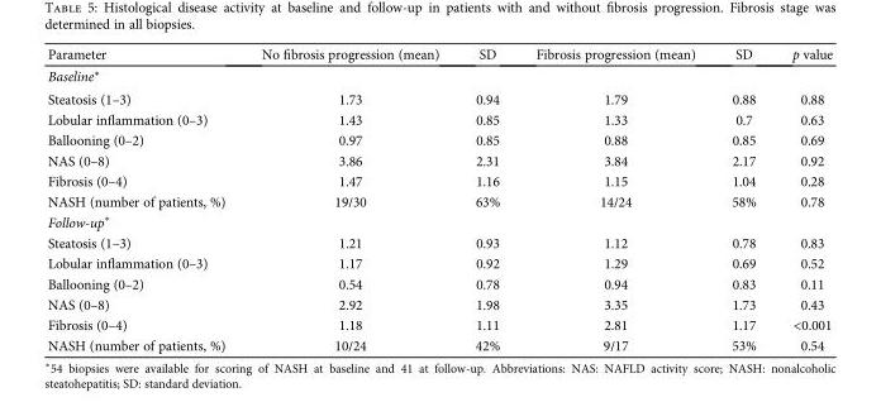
<table><thead><tr><td>Parameter</td><td>No fibrosis progression (mean)</td><td>SD</td><td>Fibrosis progression (mean)</td><td>SD</td><td>p value</td></tr></thead><tbody><tr><td colspan="6">Baseline∗</td></tr><tr><td>Steatosis (1–3)</td><td>1.73</td><td>0.94</td><td>1.79</td><td>0.88</td><td>0.88</td></tr><tr><td>Lobular inflammation (0–3)</td><td>1.43</td><td>0.85</td><td>1.33</td><td>0.7</td><td>0.63</td></tr><tr><td>Ballooning (0–2)</td><td>0.97</td><td>0.85</td><td>0.88</td><td>0.85</td><td>0.69</td></tr><tr><td>NAS (0–8)</td><td>3.86</td><td>2.31</td><td>3.84</td><td>2.17</td><td>0.92</td></tr><tr><td>Fibrosis (0–4)</td><td>1.47</td><td>1.16</td><td>1.15</td><td>1.04</td><td>0.28</td></tr><tr><td>NASH (number of patients, %)</td><td>19/30</td><td>63%</td><td>14/24</td><td>58%</td><td>0.78</td></tr><tr><td colspan="6">Follow-up∗</td></tr><tr><td>Steatosis (1–3)</td><td>1.21</td><td>0.93</td><td>1.12</td><td>0.78</td><td>0.83</td></tr><tr><td>Lobular inflammation (0–3)</td><td>1.17</td><td>0.92</td><td>1.29</td><td>0.69</td><td>0.52</td></tr><tr><td>Ballooning (0–2)</td><td>0.54</td><td>0.78</td><td>0.94</td><td>0.83</td><td>0.11</td></tr><tr><td>NAS (0–8)</td><td>2.92</td><td>1.98</td><td>3.35</td><td>1.73</td><td>0.43</td></tr><tr><td>Fibrosis (0–4)</td><td>1.18</td><td>1.11</td><td>2.81</td><td>1.17</td><td>&lt;0.001</td></tr><tr><td>NASH (number of patients, %)</td><td>10/24</td><td>42%</td><td>9/17</td><td>53%</td><td>0.54</td></tr></tbody></table>